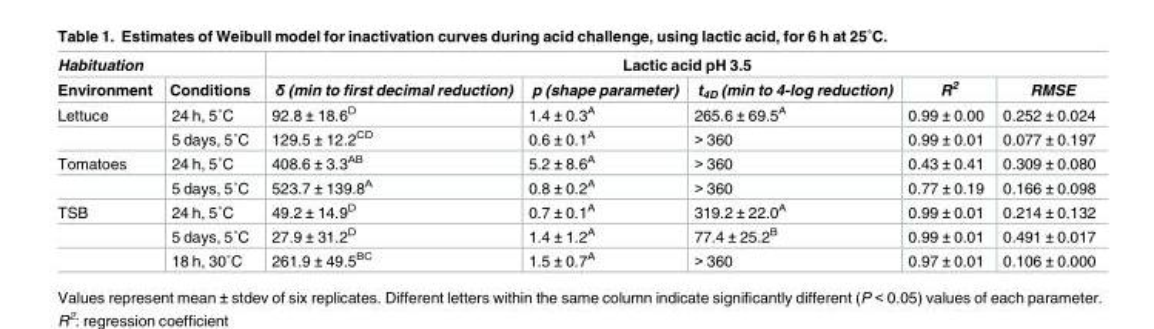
<table><thead><tr><td colspan="2">Habituation</td><td colspan="5">Lactic acid pH 3.5</td></tr><tr><td>Environment</td><td>Conditions</td><td>δ (min to first decimal reduction)</td><td>p (shape parameter)</td><td>t<sub>4D</sub> (min to 4-log reduction)</td><td>R<sup>2</sup></td><td>RMSE</td></tr></thead><tbody><tr><td rowspan="2">Lettuce</td><td>24 h, 5˚C</td><td>92.8 ± 18.6<sup>D</sup></td><td>1.4 ± 0.3<sup>A</sup></td><td>265.6 ± 69.5<sup>A</sup></td><td>0.99 ± 0.00</td><td>0.252 ± 0.024</td></tr><tr><td>5 days, 5˚C</td><td>129.5 ± 12.2<sup>CD</sup></td><td>0.6 ± 0.1<sup>A</sup></td><td>&gt; 360</td><td>0.99 ± 0.01</td><td>0.077 ± 0.197</td></tr><tr><td rowspan="2">Tomatoes</td><td>24 h, 5˚C</td><td>408.6 ± 3.3<sup>ΑΒ</sup></td><td>5.2 ± 8.6<sup>A</sup></td><td>&gt; 360</td><td>0.43 ± 0.41</td><td>0.309 ± 0.080</td></tr><tr><td>5 days, 5˚C</td><td>523.7 ± 139.8<sup>Α</sup></td><td>0.8 ± 0.2<sup>A</sup></td><td>&gt; 360</td><td>0.77 ± 0.19</td><td>0.166 ± 0.098</td></tr><tr><td rowspan="3">TSB</td><td>24 h, 5˚C</td><td>49.2 ± 14.9<sup>D</sup></td><td>0.7 ± 0.1<sup>A</sup></td><td>319.2 ± 22.0<sup>A</sup></td><td>0.99 ± 0.01</td><td>0.214 ± 0.132</td></tr><tr><td>5 days, 5˚C</td><td>27.9 ± 31.2<sup>D</sup></td><td>1.4 ± 1.2<sup>A</sup></td><td>77.4 ± 25.2<sup>B</sup></td><td>0.99 ± 0.01</td><td>0.491 ± 0.017</td></tr><tr><td>18 h, 30˚C</td><td>261.9 ± 49.5<sup>BC</sup></td><td>1.5 ± 0.7<sup>A</sup></td><td>&gt; 360</td><td>0.97 ± 0.01</td><td>0.106 ± 0.000</td></tr></tbody></table>